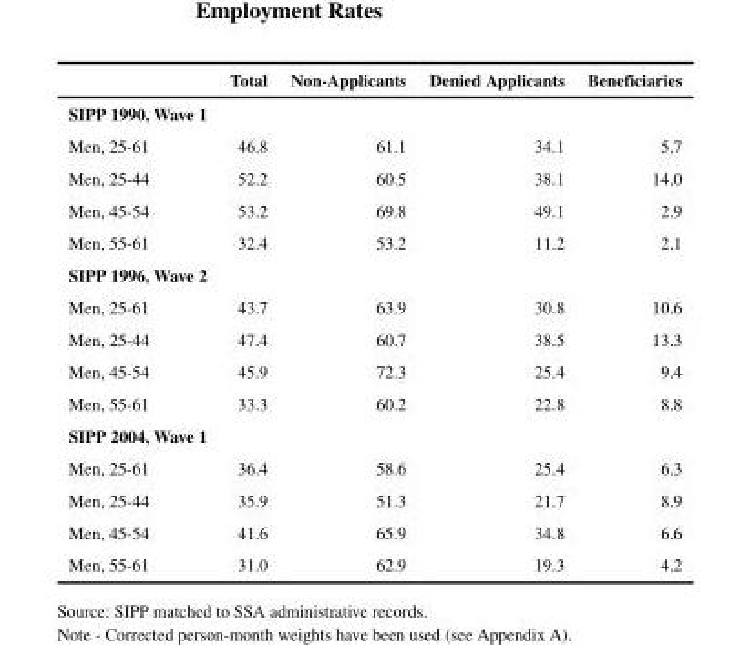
<table><thead><tr><td></td><td>Total</td><td>Non-Applicants</td><td>Denied Applicants</td><td>Beneficiaries</td></tr></thead><tbody><tr><td colspan="5">SIPP 1990, Wave 1</td></tr><tr><td>Men, 25-61</td><td>46.8</td><td>61.1</td><td>34.1</td><td>5.7</td></tr><tr><td>Men, 25-44</td><td>52.2</td><td>60.5</td><td>38.1</td><td>14.0</td></tr><tr><td>Men, 45-54</td><td>53.2</td><td>69.8</td><td>49.1</td><td>2.9</td></tr><tr><td>Men, 55-61</td><td>32.4</td><td>53.2</td><td>11.2</td><td>2.1</td></tr><tr><td colspan="5">SIPP 1996, Wave 2</td></tr><tr><td>Men, 25-61</td><td>43.7</td><td>63.9</td><td>30.8</td><td>10.6</td></tr><tr><td>Men, 25-44</td><td>47.4</td><td>60.7</td><td>38.5</td><td>13.3</td></tr><tr><td>Men, 45-54</td><td>45.9</td><td>72.3</td><td>25.4</td><td>9.4</td></tr><tr><td>Men, 55-61</td><td>33.3</td><td>60.2</td><td>22.8</td><td>8.8</td></tr><tr><td colspan="5">SIPP 2004, Wave 1</td></tr><tr><td>Men, 25-61</td><td>36.4</td><td>58.6</td><td>25.4</td><td>6.3</td></tr><tr><td>Men, 25-44</td><td>35.9</td><td>51.3</td><td>21.7</td><td>8.9</td></tr><tr><td>Men, 45-54</td><td>41.6</td><td>65.9</td><td>34.8</td><td>6.6</td></tr><tr><td>Men, 55-61</td><td>31.0</td><td>62.9</td><td>19.3</td><td>4.2</td></tr></tbody></table>